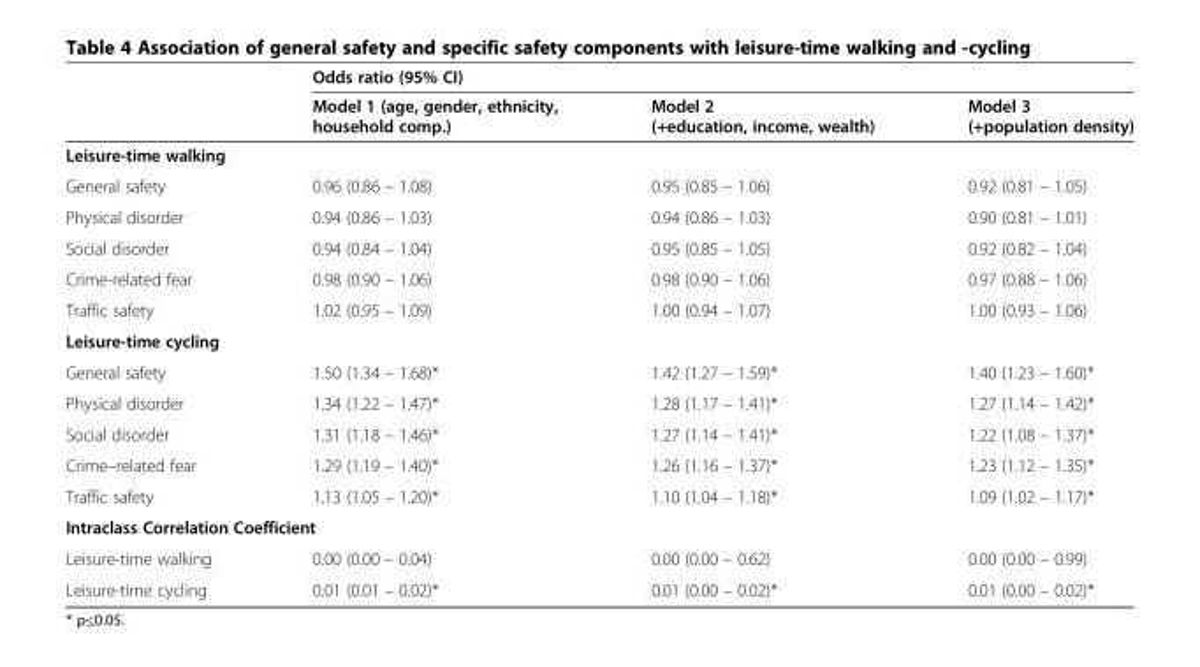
<table><thead><tr><td rowspan="2"></td><td colspan="3">Odds ratio (95% CI)</td></tr><tr><td>Model 1 (age, gender, ethnicity, household comp.)</td><td>Model 2 (+education, income, wealth)</td><td>Model 3 (+population density)</td></tr></thead><tbody><tr><td colspan="4">Leisure-time walking</td></tr><tr><td>General safety</td><td>0.96 (0.86 – 1.08)</td><td>0.95 (0.85 – 1.06)</td><td>0.92 (0.81 – 1.05)</td></tr><tr><td>Physical disorder</td><td>0.94 (0.86 – 1.03)</td><td>0.94 (0.86 – 1.03)</td><td>0.90 (0.81 – 1.01)</td></tr><tr><td>Social disorder</td><td>0.94 (0.84 – 1.04)</td><td>0.95 (0.85 – 1.05)</td><td>0.92 (0.82 – 1.04)</td></tr><tr><td>Crime-related fear</td><td>0.98 (0.90 – 1.06)</td><td>0.98 (0.90 – 1.06)</td><td>0.97 (0.88 – 1.06)</td></tr><tr><td>Traffic safety</td><td>1.02 (0.95 – 1.09)</td><td>1.00 (0.94 – 1.07)</td><td>1.00 (0.93 – 1.06)</td></tr><tr><td colspan="4">Leisure-time cycling</td></tr><tr><td>General safety</td><td>1.50 (1.34 – 1.68)*</td><td>1.42 (1.27 – 1.59)*</td><td>1.40 (1.23 – 1.60)*</td></tr><tr><td>Physical disorder</td><td>1.34 (1.22 – 1.47)*</td><td>1.28 (1.17 – 1.41)*</td><td>1.27 (1.14 – 1.42)*</td></tr><tr><td>Social disorder</td><td>1.31 (1.18 – 1.46)*</td><td>1.27 (1.14 – 1.41)*</td><td>1.22 (1.08 – 1.37)*</td></tr><tr><td>Crime–related fear</td><td>1.29 (1.19 – 1.40)*</td><td>1.26 (1.16 – 1.37)*</td><td>1.23 (1.12 – 1.35)*</td></tr><tr><td>Traffic safety</td><td>1.13 (1.05 – 1.20)*</td><td>1.10 (1.04 – 1.18)*</td><td>1.09 (1.02 – 1.17)*</td></tr><tr><td colspan="4">Intraclass Correlation Coefficient</td></tr><tr><td>Leisure-time walking</td><td>0.00 (0.00 – 0.04)</td><td>0.00 (0.00 – 0.62)</td><td>0.00 (0.00 – 0.99)</td></tr><tr><td>Leisure-time cycling</td><td>0.01 (0.01 – 0.02)*</td><td>0.01 (0.00 – 0.02)*</td><td>0.01 (0.00 – 0.02)*</td></tr></tbody></table>